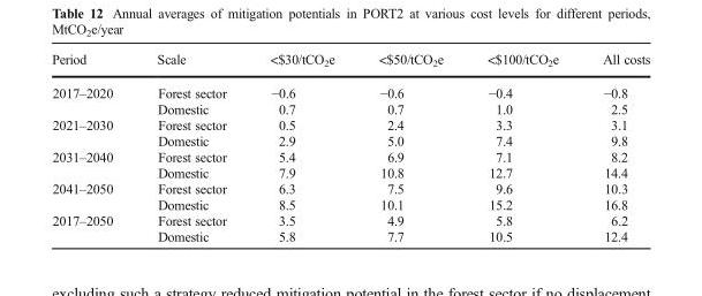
<table><thead><tr><td>Period</td><td>Scale</td><td>&lt;$30/tCO<sub>2</sub>e</td><td>&lt;$50/tCO<sub>2</sub>e</td><td>&lt;$100/tCO<sub>2</sub>e</td><td>All costs</td></tr></thead><tbody><tr><td rowspan="2">2017–2020</td><td>Forest sector</td><td>−0.6</td><td>−0.6</td><td>−0.4</td><td>−0.8</td></tr><tr><td>Domestic</td><td>0.7</td><td>0.7</td><td>1.0</td><td>2.5</td></tr><tr><td rowspan="2">2021–2030</td><td>Forest sector</td><td>0.5</td><td>2.4</td><td>3.3</td><td>3.1</td></tr><tr><td>Domestic</td><td>2.9</td><td>5.0</td><td>7.4</td><td>9.8</td></tr><tr><td rowspan="2">2031–2040</td><td>Forest sector</td><td>5.4</td><td>6.9</td><td>7.1</td><td>8.2</td></tr><tr><td>Domestic</td><td>7.9</td><td>10.8</td><td>12.7</td><td>14.4</td></tr><tr><td rowspan="2">2041–2050</td><td>Forest sector</td><td>6.3</td><td>7.5</td><td>9.6</td><td>10.3</td></tr><tr><td>Domestic</td><td>8.5</td><td>10.1</td><td>15.2</td><td>16.8</td></tr><tr><td rowspan="2">2017–2050</td><td>Forest sector</td><td>3.5</td><td>4.9</td><td>5.8</td><td>6.2</td></tr><tr><td>Domestic</td><td>5.8</td><td>7.7</td><td>10.5</td><td>12.4</td></tr></tbody></table>